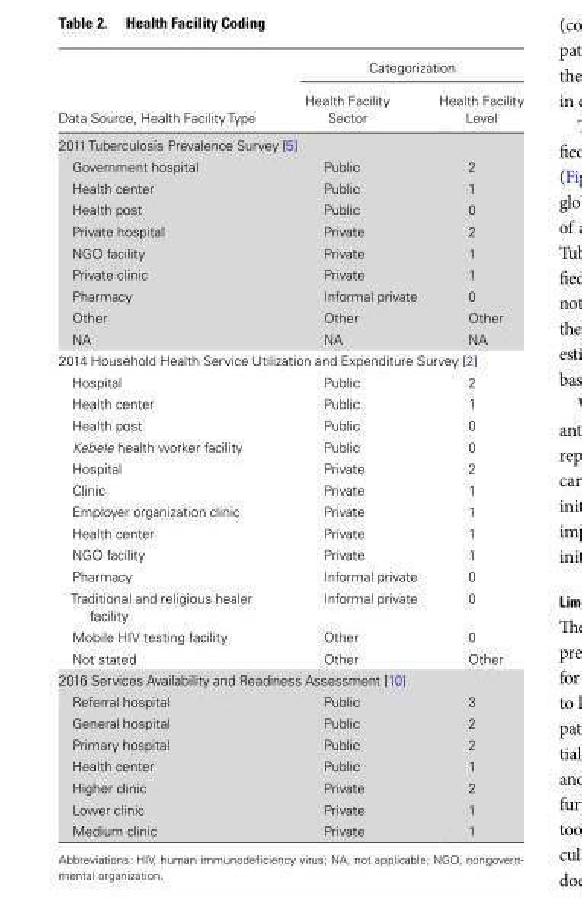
<table><thead><tr><td rowspan="2">Data Source, Health Facility Type</td><td colspan="2">Categorization</td></tr><tr><td>Health Facility Sector</td><td>Health Facility Level</td></tr></thead><tbody><tr><td colspan="3">2011 Tuberculosis Prevalence Survey [5]</td></tr><tr><td>Government hospital</td><td>Public</td><td>2</td></tr><tr><td>Health center</td><td>Public</td><td>1</td></tr><tr><td>Health post</td><td>Public</td><td>0</td></tr><tr><td>Private hospital</td><td>Private</td><td>2</td></tr><tr><td>NGO facility</td><td>Private</td><td>1</td></tr><tr><td>Private clinic</td><td>Private</td><td>1</td></tr><tr><td>Pharmacy</td><td>Informal private</td><td>0</td></tr><tr><td>Other</td><td>Other</td><td>Other</td></tr><tr><td>NA</td><td>NA</td><td>NA</td></tr><tr><td colspan="3">2014 Household Health Service Utilization and Expenditure Survey [2]</td></tr><tr><td>Hospital</td><td>Public</td><td>2</td></tr><tr><td>Health center</td><td>Public</td><td>1</td></tr><tr><td>Health post</td><td>Public</td><td>0</td></tr><tr><td>Kebele health worker facility</td><td>Public</td><td>0</td></tr><tr><td>Hospital</td><td>Private</td><td>2</td></tr><tr><td>Clinic</td><td>Private</td><td>1</td></tr><tr><td>Employer organization clinic</td><td>Private</td><td>1</td></tr><tr><td>Health center</td><td>Private</td><td>1</td></tr><tr><td>NGO facility</td><td>Private</td><td>1</td></tr><tr><td>Pharmacy</td><td>Informal private</td><td>0</td></tr><tr><td>Traditional and religious healer facility</td><td>Informal private</td><td>0</td></tr><tr><td>Mobile HIV testing facility</td><td>Other</td><td>0</td></tr><tr><td>Not stated</td><td>Other</td><td>Other</td></tr><tr><td colspan="3">2016 Services Availability and Readiness Assessment [10]</td></tr><tr><td>Referral hospital</td><td>Public</td><td>3</td></tr><tr><td>General hospital</td><td>Public</td><td>2</td></tr><tr><td>Primary hospital</td><td>Public</td><td>2</td></tr><tr><td>Health center</td><td>Public</td><td>1</td></tr><tr><td>Higher clinic</td><td>Private</td><td>2</td></tr><tr><td>Lower clinic</td><td>Private</td><td>1</td></tr><tr><td>Medium clinic</td><td>Private</td><td>1</td></tr></tbody></table>